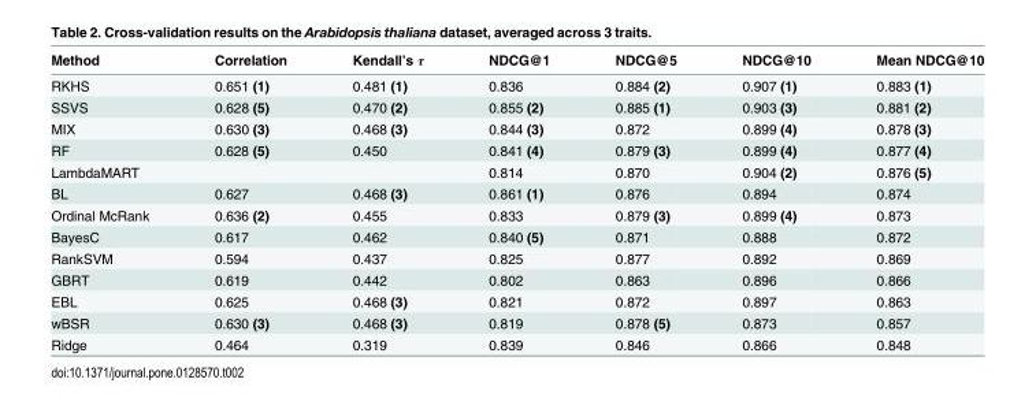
<table><thead><tr><td>Method</td><td>Correlation</td><td>Kendall’s τ</td><td>NDCG@1</td><td>NDCG@5</td><td>NDCG@10</td><td>Mean NDCG@10</td></tr></thead><tbody><tr><td>RKHS</td><td>0.651 (1)</td><td>0.481 (1)</td><td>0.836</td><td>0.884 (2)</td><td>0.907 (1)</td><td>0.883 (1)</td></tr><tr><td>SSVS</td><td>0.628 (5)</td><td>0.470 (2)</td><td>0.855 (2)</td><td>0.885 (1)</td><td>0.903 (3)</td><td>0.881 (2)</td></tr><tr><td>MIX</td><td>0.630 (3)</td><td>0.468 (3)</td><td>0.844 (3)</td><td>0.872</td><td>0.899 (4)</td><td>0.878 (3)</td></tr><tr><td>RF</td><td>0.628 (5)</td><td>0.450</td><td>0.841 (4)</td><td>0.879 (3)</td><td>0.899 (4)</td><td>0.877 (4)</td></tr><tr><td>LambdaMART</td><td></td><td></td><td>0.814</td><td>0.870</td><td>0.904 (2)</td><td>0.876 (5)</td></tr><tr><td>BL</td><td>0.627</td><td>0.468 (3)</td><td>0.861 (1)</td><td>0.876</td><td>0.894</td><td>0.874</td></tr><tr><td>Ordinal McRank</td><td>0.636 (2)</td><td>0.455</td><td>0.833</td><td>0.879 (3)</td><td>0.899 (4)</td><td>0.873</td></tr><tr><td>BayesC</td><td>0.617</td><td>0.462</td><td>0.840 (5)</td><td>0.871</td><td>0.888</td><td>0.872</td></tr><tr><td>RankSVM</td><td>0.594</td><td>0.437</td><td>0.825</td><td>0.877</td><td>0.892</td><td>0.869</td></tr><tr><td>GBRT</td><td>0.619</td><td>0.442</td><td>0.802</td><td>0.863</td><td>0.896</td><td>0.866</td></tr><tr><td>EBL</td><td>0.625</td><td>0.468 (3)</td><td>0.821</td><td>0.872</td><td>0.897</td><td>0.863</td></tr><tr><td>wBSR</td><td>0.630 (3)</td><td>0.468 (3)</td><td>0.819</td><td>0.878 (5)</td><td>0.873</td><td>0.857</td></tr><tr><td>Ridge</td><td>0.464</td><td>0.319</td><td>0.839</td><td>0.846</td><td>0.866</td><td>0.848</td></tr></tbody></table>